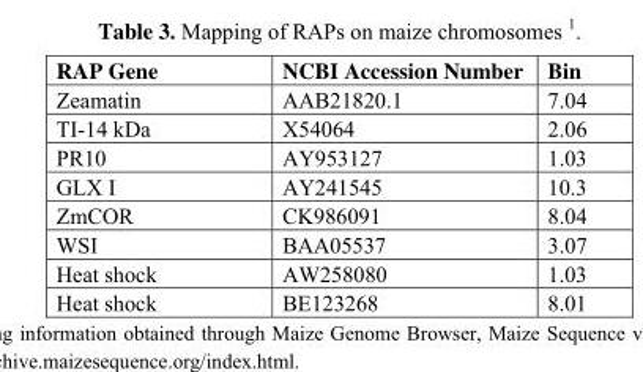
<table><thead><tr><td>RAP Gene</td><td>NCBI Accession Number</td><td>Bin</td></tr></thead><tbody><tr><td>Zeamatin</td><td>AAB21820.1</td><td>7.04</td></tr><tr><td>TI-14 kDa</td><td>X54064</td><td>2.06</td></tr><tr><td>PR10</td><td>AY953127</td><td>1.03</td></tr><tr><td>GLX I</td><td>AY241545</td><td>10.3</td></tr><tr><td>ZmCOR</td><td>CK986091</td><td>8.04</td></tr><tr><td>WSI</td><td>BAA05537</td><td>3.07</td></tr><tr><td>Heat shock</td><td>AW258080</td><td>1.03</td></tr><tr><td>Heat shock</td><td>BE123268</td><td>8.01</td></tr></tbody></table>